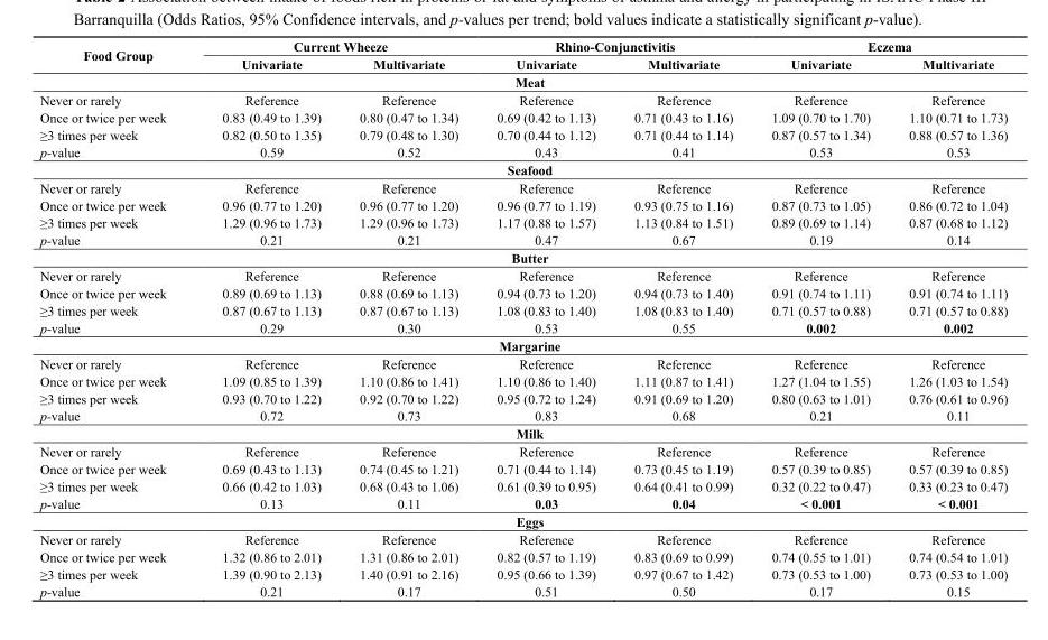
<table><thead><tr><td rowspan="2">Food Group</td><td colspan="2">Current Wheeze</td><td colspan="2">Rhino-Conjunctivitis</td><td colspan="2">Eczema</td></tr><tr><td>Univariate</td><td>Multivariate</td><td>Univariate</td><td>Multivariate</td><td>Univariate</td><td>Multivariate</td></tr></thead><tbody><tr><td colspan="7">Meat</td></tr><tr><td>Never or rarely</td><td>Reference</td><td>Reference</td><td>Reference</td><td>Reference</td><td>Reference</td><td>Reference</td></tr><tr><td>Once or twice per week</td><td>0.83 (0.49 to 1.39)</td><td>0.80 (0.47 to 1.34)</td><td>0.69 (0.42 to 1.13)</td><td>0.71 (0.43 to 1.16)</td><td>1.09 (0.70 to 1.70)</td><td>1.10 (0.71 to 1.73)</td></tr><tr><td>≥3 times per week</td><td>0.82 (0.50 to 1.35)</td><td>0.79 (0.48 to 1.30)</td><td>0.70 (0.44 to 1.12)</td><td>0.71 (0.44 to 1.14)</td><td>0.87 (0.57 to 1.34)</td><td>0.88 (0.57 to 1.36)</td></tr><tr><td>p-value</td><td>0.59</td><td>0.52</td><td>0.43</td><td>0.41</td><td>0.53</td><td>0.53</td></tr><tr><td colspan="7">Seafood</td></tr><tr><td>Never or rarely</td><td>Reference</td><td>Reference</td><td>Reference</td><td>Reference</td><td>Reference</td><td>Reference</td></tr><tr><td>Once or twice per week</td><td>0.96 (0.77 to 1.20)</td><td>0.96 (0.77 to 1.20)</td><td>0.96 (0.77 to 1.19)</td><td>0.93 (0.75 to 1.16)</td><td>0.87 (0.73 to 1.05)</td><td>0.86 (0.72 to 1.04)</td></tr><tr><td>≥3 times per week</td><td>1.29 (0.96 to 1.73)</td><td>1.29 (0.96 to 1.73)</td><td>1.17 (0.88 to 1.57)</td><td>1.13 (0.84 to 1.51)</td><td>0.89 (0.69 to 1.14)</td><td>0.87 (0.68 to 1.12)</td></tr><tr><td>p-value</td><td>0.21</td><td>0.21</td><td>0.47</td><td>0.67</td><td>0.19</td><td>0.14</td></tr><tr><td colspan="7">Butter</td></tr><tr><td>Never or rarely</td><td>Reference</td><td>Reference</td><td>Reference</td><td>Reference</td><td>Reference</td><td>Reference</td></tr><tr><td>Once or twice per week</td><td>0.89 (0.69 to 1.13)</td><td>0.88 (0.69 to 1.13)</td><td>0.94 (0.73 to 1.20)</td><td>0.94 (0.73 to 1.40)</td><td>0.91 (0.74 to 1.11)</td><td>0.91 (0.74 to 1.11)</td></tr><tr><td>≥3 times per week</td><td>0.87 (0.67 to 1.13)</td><td>0.87 (0.67 to 1.13)</td><td>1.08 (0.83 to 1.40)</td><td>1.08 (0.83 to 1.40)</td><td>0.71 (0.57 to 0.88)</td><td>0.71 (0.57 to 0.88)</td></tr><tr><td>p-value</td><td>0.29</td><td>0.30</td><td>0.53</td><td>0.55</td><td>0.002</td><td>0.002</td></tr><tr><td colspan="7">Margarine</td></tr><tr><td>Never or rarely</td><td>Reference</td><td>Reference</td><td>Reference</td><td>Reference</td><td>Reference</td><td>Reference</td></tr><tr><td>Once or twice per week</td><td>1.09 (0.85 to 1.39)</td><td>1.10 (0.86 to 1.41)</td><td>1.10 (0.86 to 1.40)</td><td>1.11 (0.87 to 1.41)</td><td>1.27 (1.04 to 1.55)</td><td>1.26 (1.03 to 1.54)</td></tr><tr><td>≥3 times per week</td><td>0.93 (0.70 to 1.22)</td><td>0.92 (0.70 to 1.22)</td><td>0.95 (0.72 to 1.24)</td><td>0.91 (0.69 to 1.20)</td><td>0.80 (0.63 to 1.01)</td><td>0.76 (0.61 to 0.96)</td></tr><tr><td>p-value</td><td>0.72</td><td>0.73</td><td>0.83</td><td>0.68</td><td>0.21</td><td>0.11</td></tr><tr><td colspan="7">Milk</td></tr><tr><td>Never or rarely</td><td>Reference</td><td>Reference</td><td>Reference</td><td>Reference</td><td>Reference</td><td>Reference</td></tr><tr><td>Once or twice per week</td><td>0.69 (0.43 to 1.13)</td><td>0.74 (0.45 to 1.21)</td><td>0.71 (0.44 to 1.14)</td><td>0.73 (0.45 to 1.19)</td><td>0.57 (0.39 to 0.85)</td><td>0.57 (0.39 to 0.85)</td></tr><tr><td>≥3 times per week</td><td>0.66 (0.42 to 1.03)</td><td>0.68 (0.43 to 1.06)</td><td>0.61 (0.39 to 0.95)</td><td>0.64 (0.41 to 0.99)</td><td>0.32 (0.22 to 0.47)</td><td>0.33 (0.23 to 0.47)</td></tr><tr><td>p-value</td><td>0.13</td><td>0.11</td><td>0.03</td><td>0.04</td><td>&lt; 0.001</td><td>&lt; 0.001</td></tr><tr><td colspan="7">Eggs</td></tr><tr><td>Never or rarely</td><td>Reference</td><td>Reference</td><td>Reference</td><td>Reference</td><td>Reference</td><td>Reference</td></tr><tr><td>Once or twice per week</td><td>1.32 (0.86 to 2.01)</td><td>1.31 (0.86 to 2.01)</td><td>0.82 (0.57 to 1.19)</td><td>0.83 (0.69 to 0.99)</td><td>0.74 (0.55 to 1.01)</td><td>0.74 (0.54 to 1.01)</td></tr><tr><td>≥3 times per week</td><td>1.39 (0.90 to 2.13)</td><td>1.40 (0.91 to 2.16)</td><td>0.95 (0.66 to 1.39)</td><td>0.97 (0.67 to 1.42)</td><td>0.73 (0.53 to 1.00)</td><td>0.73 (0.53 to 1.00)</td></tr><tr><td>p-value</td><td>0.21</td><td>0.17</td><td>0.51</td><td>0.50</td><td>0.17</td><td>0.15</td></tr></tbody></table>